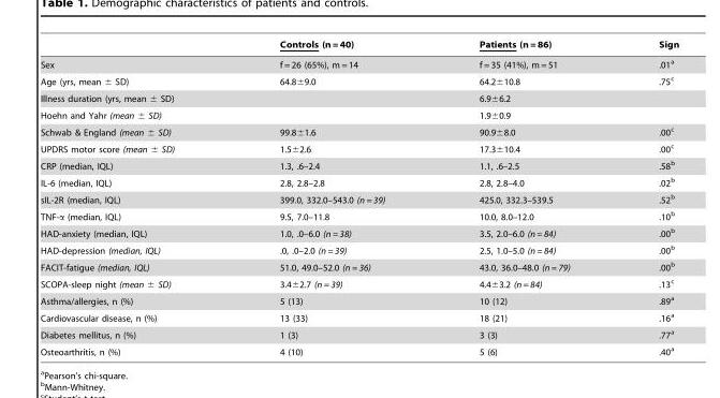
<table><thead><tr><td></td><td>Controls (n = 40)</td><td>Patients (n = 86)</td><td>Sign</td></tr></thead><tbody><tr><td>Sex</td><td>f = 26 (65%), m = 14</td><td>f = 35 (41%), m = 51</td><td>.01<sup>a</sup></td></tr><tr><td>Age (yrs, mean ± SD)</td><td>64.8±9.0</td><td>64.2±10.8</td><td>.75<sup>c</sup></td></tr><tr><td>Illness duration (yrs, mean ± SD)</td><td></td><td>6.9±6.2</td><td></td></tr><tr><td>Hoehn and Yahr (mean ± SD)</td><td></td><td>1.9±0.9</td><td></td></tr><tr><td>Schwab &amp; England (mean ± SD)</td><td>99.8±1.6</td><td>90.9±8.0</td><td>.00<sup>c</sup></td></tr><tr><td>UPDRS motor score (mean ± SD)</td><td>1.5±2.6</td><td>17.3±10.4</td><td>.00<sup>c</sup></td></tr><tr><td>CRP (median, IQL)</td><td>1.3, .6–2.4</td><td>1.1, .6–2.5</td><td>.58<sup>b</sup></td></tr><tr><td>IL-6 (median, IQL)</td><td>2.8, 2.8–2.8</td><td>2.8, 2.8–4.0</td><td>.02<sup>b</sup></td></tr><tr><td>sIL-2R (median, IQL)</td><td>399.0, 332.0–543.0 (n = 39)</td><td>425.0, 332.3–539.5</td><td>.52<sup>b</sup></td></tr><tr><td>TNF-α (median, IQL)</td><td>9.5, 7.0–11.8</td><td>10.0, 8.0–12.0</td><td>.10<sup>b</sup></td></tr><tr><td>HAD-anxiety (median, IQL)</td><td>1.0, .0–6.0 (n = 38)</td><td>3.5, 2.0–6.0 (n = 84)</td><td>.00<sup>b</sup></td></tr><tr><td>HAD-depression (median, IQL)</td><td>.0, .0–2.0 (n = 39)</td><td>2.5, 1.0–5.0 (n = 84)</td><td>.00<sup>b</sup></td></tr><tr><td>FACIT-fatigue (median, IQL)</td><td>51.0, 49.0–52.0 (n = 36)</td><td>43.0, 36.0–48.0 (n = 79)</td><td>.00<sup>b</sup></td></tr><tr><td>SCOPA-sleep night (mean ± SD)</td><td>3.4±2.7 (n = 39)</td><td>4.4±3.2 (n = 84)</td><td>.13<sup>c</sup></td></tr><tr><td>Asthma/allergies, n (%)</td><td>5 (13)</td><td>10 (12)</td><td>.89<sup>a</sup></td></tr><tr><td>Cardiovascular disease, n (%)</td><td>13 (33)</td><td>18 (21)</td><td>.16<sup>a</sup></td></tr><tr><td>Diabetes mellitus, n (%)</td><td>1 (3)</td><td>3 (3)</td><td>.77<sup>a</sup></td></tr><tr><td>Osteoarthritis, n (%)</td><td>4 (10)</td><td>5 (6)</td><td>.40<sup>a</sup></td></tr></tbody></table>